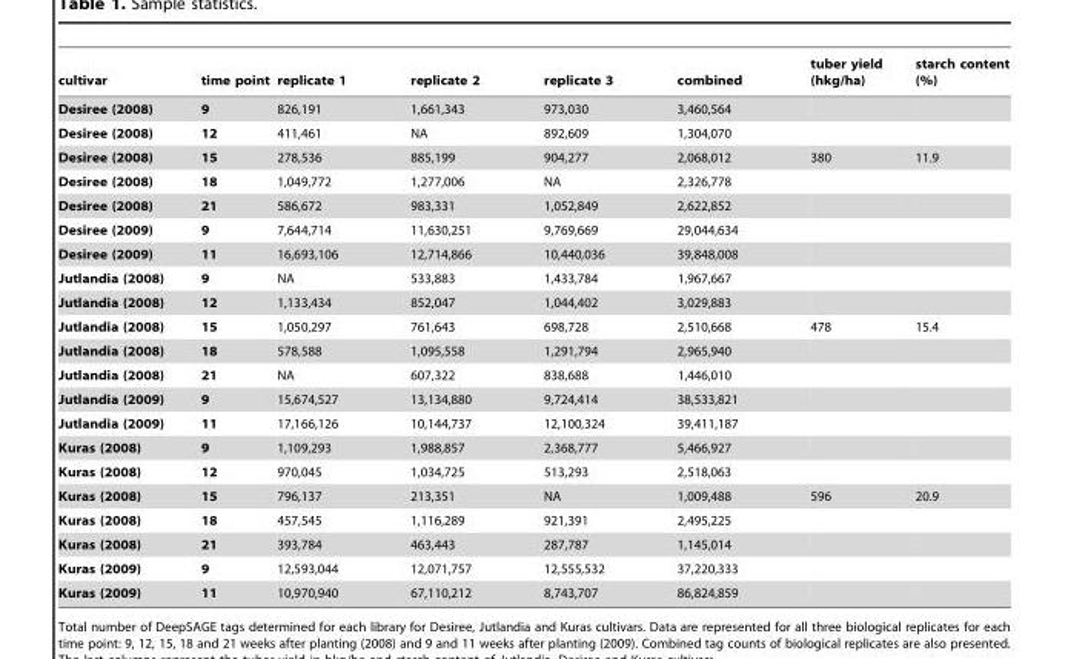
<table><thead><tr><td>cultivar</td><td>time point</td><td>replicate 1</td><td>replicate 2</td><td>replicate 3</td><td>combined</td><td>tuber yield (hkg/ha)</td><td>starch content (%)</td></tr></thead><tbody><tr><td>Desiree (2008)</td><td>9</td><td>826,191</td><td>1,661,343</td><td>973,030</td><td>3,460,564</td><td></td><td></td></tr><tr><td>Desiree (2008)</td><td>12</td><td>411,461</td><td>NA</td><td>892,609</td><td>1,304,070</td><td></td><td></td></tr><tr><td>Desiree (2008)</td><td>15</td><td>278,536</td><td>885,199</td><td>904,277</td><td>2,068,012</td><td>380</td><td>11.9</td></tr><tr><td>Desiree (2008)</td><td>18</td><td>1,049,772</td><td>1,277,006</td><td>NA</td><td>2,326,778</td><td></td><td></td></tr><tr><td>Desiree (2008)</td><td>21</td><td>586,672</td><td>983,331</td><td>1,052,849</td><td>2,622,852</td><td></td><td></td></tr><tr><td>Desiree (2009)</td><td>9</td><td>7,644,714</td><td>11,630,251</td><td>9,769,669</td><td>29,044,634</td><td></td><td></td></tr><tr><td>Desiree (2009)</td><td>11</td><td>16,693,106</td><td>12,714,866</td><td>10,440,036</td><td>39,848,008</td><td></td><td></td></tr><tr><td>Jutlandia (2008)</td><td>9</td><td>NA</td><td>533,883</td><td>1,433,784</td><td>1,967,667</td><td></td><td></td></tr><tr><td>Jutlandia (2008)</td><td>12</td><td>1,133,434</td><td>852,047</td><td>1,044,402</td><td>3,029,883</td><td></td><td></td></tr><tr><td>Jutlandia (2008)</td><td>15</td><td>1,050,297</td><td>761,643</td><td>698,728</td><td>2,510,668</td><td>478</td><td>15.4</td></tr><tr><td>Jutlandia (2008)</td><td>18</td><td>578,588</td><td>1,095,558</td><td>1,291,794</td><td>2,965,940</td><td></td><td></td></tr><tr><td>Jutlandia (2008)</td><td>21</td><td>NA</td><td>607,322</td><td>838,688</td><td>1,446,010</td><td></td><td></td></tr><tr><td>Jutlandia (2009)</td><td>9</td><td>15,674,527</td><td>13,134,880</td><td>9,724,414</td><td>38,533,821</td><td></td><td></td></tr><tr><td>Jutlandia (2009)</td><td>11</td><td>17,166,126</td><td>10,144,737</td><td>12,100,324</td><td>39,411,187</td><td></td><td></td></tr><tr><td>Kuras (2008)</td><td>9</td><td>1,109,293</td><td>1,988,857</td><td>2,368,777</td><td>5,466,927</td><td></td><td></td></tr><tr><td>Kuras (2008)</td><td>12</td><td>970,045</td><td>1,034,725</td><td>513,293</td><td>2,518,063</td><td></td><td></td></tr><tr><td>Kuras (2008)</td><td>15</td><td>796,137</td><td>213,351</td><td>NA</td><td>1,009,488</td><td>596</td><td>20.9</td></tr><tr><td>Kuras (2008)</td><td>18</td><td>457,545</td><td>1,116,289</td><td>921,391</td><td>2,495,225</td><td></td><td></td></tr><tr><td>Kuras (2008)</td><td>21</td><td>393,784</td><td>463,443</td><td>287,787</td><td>1,145,014</td><td></td><td></td></tr><tr><td>Kuras (2009)</td><td>9</td><td>12,593,044</td><td>12,071,757</td><td>12,555,532</td><td>37,220,333</td><td></td><td></td></tr><tr><td>Kuras (2009)</td><td>11</td><td>10,970,940</td><td>67,110,212</td><td>8,743,707</td><td>86,824,859</td><td></td><td></td></tr></tbody></table>